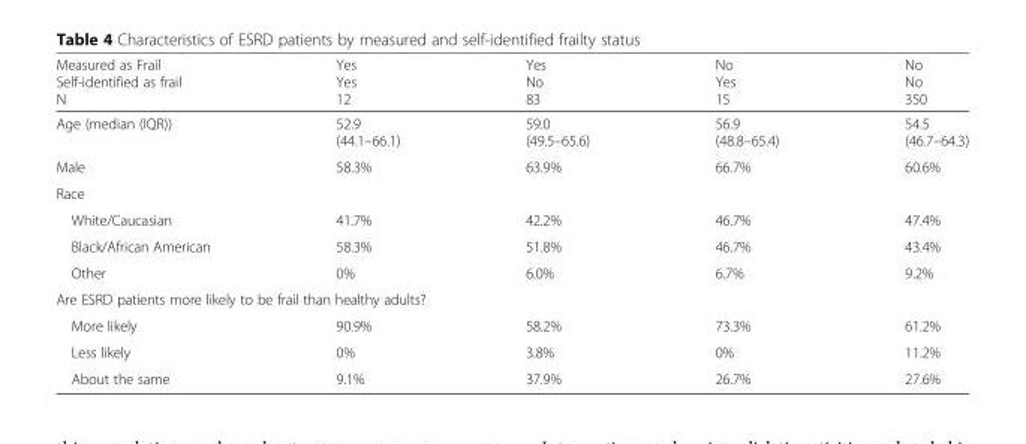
<table><thead><tr><td>Measured as Frail Self-identified as frail N</td><td>Yes Yes 12</td><td>Yes No 83</td><td>No Yes 15</td><td>No No 350</td></tr></thead><tbody><tr><td>Age (median (IQR))</td><td>52.9 (44.1–66.1)</td><td>59.0 (49.5–65.6)</td><td>56.9 (48.8–65.4)</td><td>54.5 (46.7–64.3)</td></tr><tr><td>Male</td><td>58.3%</td><td>63.9%</td><td>66.7%</td><td>60.6%</td></tr><tr><td colspan="5">Race</td></tr><tr><td>White/Caucasian</td><td>41.7%</td><td>42.2%</td><td>46.7%</td><td>47.4%</td></tr><tr><td>Black/African American</td><td>58.3%</td><td>51.8%</td><td>46.7%</td><td>43.4%</td></tr><tr><td>Other</td><td>0%</td><td>6.0%</td><td>6.7%</td><td>9.2%</td></tr><tr><td colspan="5">Are ESRD patients more likely to be frail than healthy adults?</td></tr><tr><td>More likely</td><td>90.9%</td><td>58.2%</td><td>73.3%</td><td>61.2%</td></tr><tr><td>Less likely</td><td>0%</td><td>3.8%</td><td>0%</td><td>11.2%</td></tr><tr><td>About the same</td><td>9.1%</td><td>37.9%</td><td>26.7%</td><td>27.6%</td></tr></tbody></table>